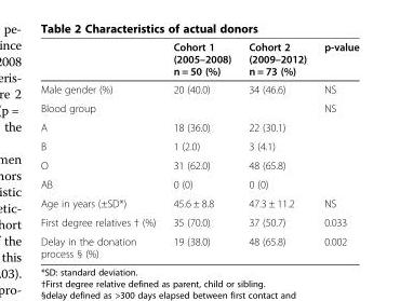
<table><thead><tr><td></td><td>Cohort 1 (2005–2008) n = 50 (%)</td><td>Cohort 2 (2009–2012) n = 73 (%)</td><td>p-value</td></tr></thead><tbody><tr><td>Male gender (%)</td><td>20 (40.0)</td><td>34 (46.6)</td><td>NS</td></tr><tr><td>Blood group</td><td></td><td></td><td>NS</td></tr><tr><td>A</td><td>18 (36.0)</td><td>22 (30.1)</td><td></td></tr><tr><td>B</td><td>1 (2.0)</td><td>3 (4.1)</td><td></td></tr><tr><td>O</td><td>31 (62.0)</td><td>48 (65.8)</td><td></td></tr><tr><td>AB</td><td>0 (0)</td><td>0 (0)</td><td></td></tr><tr><td>Age in years (±SD*)</td><td>45.6 ± 8.8</td><td>47.3 ± 11.2</td><td>NS</td></tr><tr><td>First degree relatives † (%)</td><td>35 (70.0)</td><td>37 (50.7)</td><td>0.033</td></tr><tr><td>Delay in the donation process § (%)</td><td>19 (38.0)</td><td>48 (65.8)</td><td>0.002</td></tr></tbody></table>